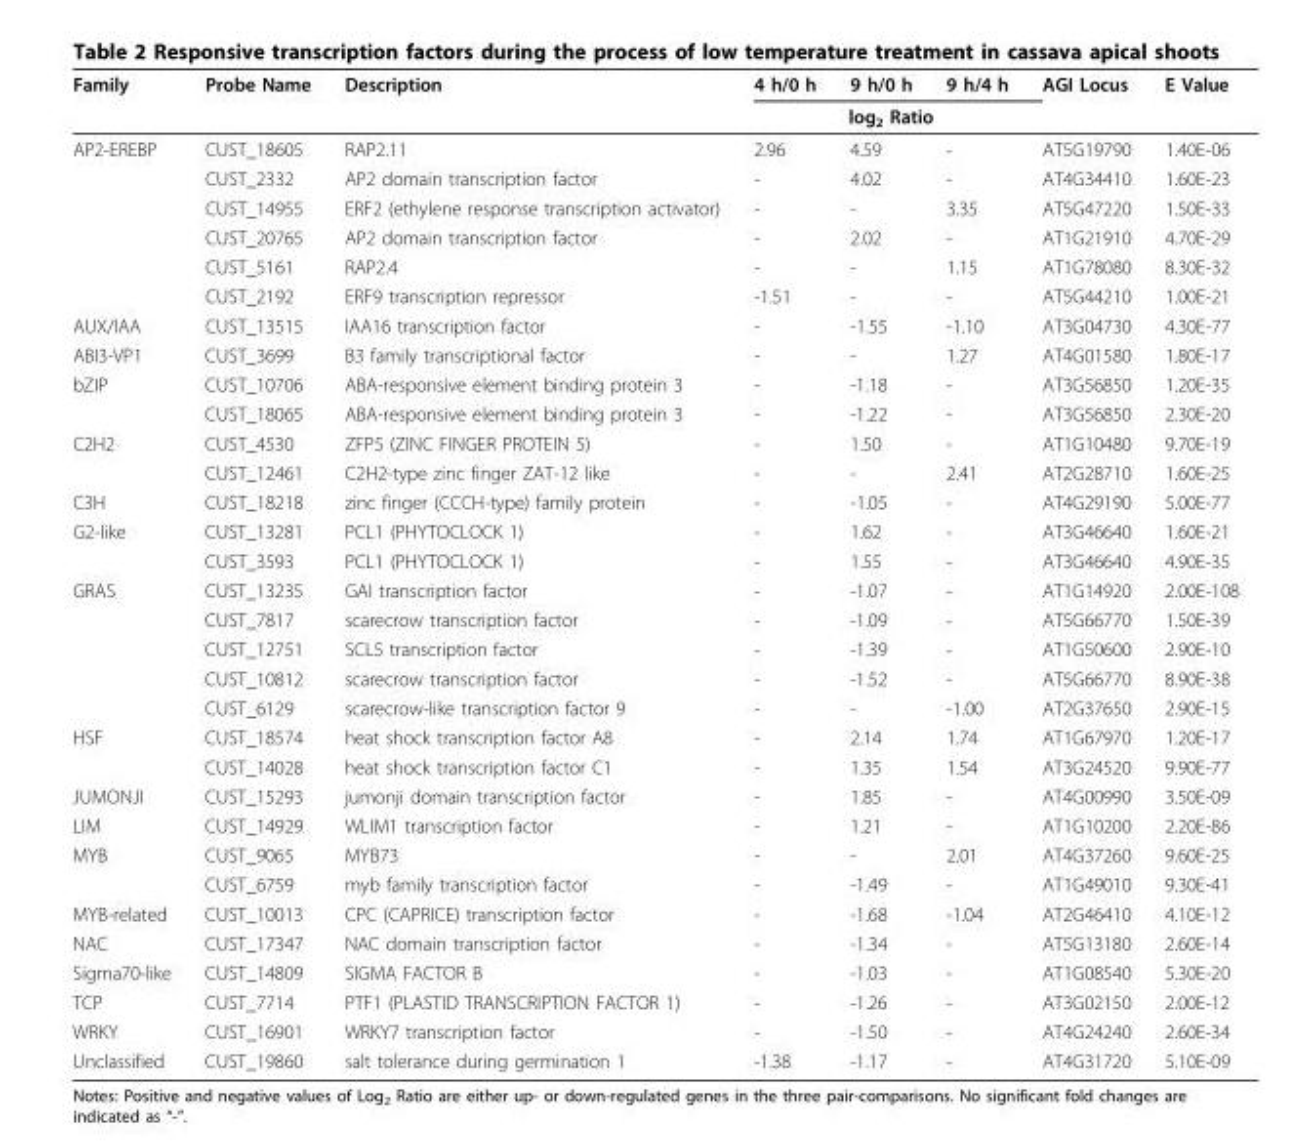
<table><thead><tr><td rowspan="2">Family</td><td rowspan="2">Probe Name</td><td rowspan="2">Description</td><td>4 h/0 h</td><td>9 h/0 h</td><td>9 h/4 h</td><td rowspan="2">AGI Locus</td><td rowspan="2">E Value</td></tr><tr><td colspan="3">log<sub>2</sub> Ratio</td></tr></thead><tbody><tr><td rowspan="6">AP2-EREBP</td><td>CUST_18605</td><td>RAP2.11</td><td>2.96</td><td>4.59</td><td>-</td><td>AT5G19790</td><td>1.40E-06</td></tr><tr><td>CUST_2332</td><td>AP2 domain transcription factor</td><td>-</td><td>4.02</td><td>-</td><td>AT4G34410</td><td>1.60E-23</td></tr><tr><td>CUST_14955</td><td>ERF2 (ethylene response transcription activator)</td><td>-</td><td>-</td><td>3.35</td><td>AT5G47220</td><td>1.50E-33</td></tr><tr><td>CUST_20765</td><td>AP2 domain transcription factor</td><td>-</td><td>2.02</td><td>-</td><td>AT1G21910</td><td>4.70E-29</td></tr><tr><td>CUST_5161</td><td>RAP2.4</td><td>-</td><td>-</td><td>1.15</td><td>AT1G78080</td><td>8.30E-32</td></tr><tr><td>CUST_2192</td><td>ERF9 transcription repressor</td><td>-1.51</td><td>-</td><td>-</td><td>AT5G44210</td><td>1.00E-21</td></tr><tr><td>AUX/IAA</td><td>CUST_13515</td><td>IAA16 transcription factor</td><td>-</td><td>-1.55</td><td>-1.10</td><td>AT3G04730</td><td>4.30E-77</td></tr><tr><td>ABI3-VP1</td><td>CUST_3699</td><td>B3 family transcriptional factor</td><td>-</td><td>-</td><td>1.27</td><td>AT4G01580</td><td>1.80E-17</td></tr><tr><td rowspan="2">bZIP</td><td>CUST_10706</td><td>ABA-responsive element binding protein 3</td><td>-</td><td>-1.18</td><td>-</td><td>AT3G56850</td><td>1.20E-35</td></tr><tr><td>CUST_18065</td><td>ABA-responsive element binding protein 3</td><td>-</td><td>-1.22</td><td>-</td><td>AT3G56850</td><td>2.30E-20</td></tr><tr><td rowspan="2">C2H2</td><td>CUST_4530</td><td>ZFP5 (ZINC FINGER PROTEIN 5)</td><td>-</td><td>1.50</td><td>-</td><td>AT1G10480</td><td>9.70E-19</td></tr><tr><td>CUST_12461</td><td>C2H2-type zinc finger ZAT-12 like</td><td>-</td><td>-</td><td>2.41</td><td>AT2G28710</td><td>1.60E-25</td></tr><tr><td>C3H</td><td>CUST_18218</td><td>zinc finger (CCCH-type) family protein</td><td>-</td><td>-1.05</td><td>-</td><td>AT4G29190</td><td>5.00E-77</td></tr><tr><td rowspan="2">G2-like</td><td>CUST_13281</td><td>PCL1 (PHYTOCLOCK 1)</td><td>-</td><td>1.62</td><td>-</td><td>AT3G46640</td><td>1.60E-21</td></tr><tr><td>CUST_3593</td><td>PCL1 (PHYTOCLOCK 1)</td><td>-</td><td>1.55</td><td>-</td><td>AT3G46640</td><td>4.90E-35</td></tr><tr><td rowspan="5">GRAS</td><td>CUST_13235</td><td>GAI transcription factor</td><td>-</td><td>-1.07</td><td>-</td><td>AT1G14920</td><td>2.00E-108</td></tr><tr><td>CUST_7817</td><td>scarecrow transcription factor</td><td>-</td><td>-1.09</td><td>-</td><td>AT5G66770</td><td>1.50E-39</td></tr><tr><td>CUST_12751</td><td>SCL5 transcription factor</td><td>-</td><td>-1.39</td><td>-</td><td>AT1G50600</td><td>2.90E-10</td></tr><tr><td>CUST_10812</td><td>scarecrow transcription factor</td><td>-</td><td>-1.52</td><td>-</td><td>AT5G66770</td><td>8.90E-38</td></tr><tr><td>CUST_6129</td><td>scarecrow-like transcription factor 9</td><td>-</td><td>-</td><td>-1.00</td><td>AT2G37650</td><td>2.90E-15</td></tr><tr><td rowspan="2">HSF</td><td>CUST_18574</td><td>heat shock transcription factor A8</td><td>-</td><td>2.14</td><td>1.74</td><td>AT1G67970</td><td>1.20E-17</td></tr><tr><td>CUST_14028</td><td>heat shock transcription factor C1</td><td>-</td><td>1.35</td><td>1.54</td><td>AT3G24520</td><td>9.90E-77</td></tr><tr><td>JUMONJI</td><td>CUST_15293</td><td>jumonji domain transcription factor</td><td>-</td><td>1.85</td><td>-</td><td>AT4G00990</td><td>3.50E-09</td></tr><tr><td>LIM</td><td>CUST_14929</td><td>WLIM1 transcription factor</td><td>-</td><td>1.21</td><td>-</td><td>AT1G10200</td><td>2.20E-86</td></tr><tr><td rowspan="2">MYB</td><td>CUST_9065</td><td>MYB73</td><td>-</td><td>-</td><td>2.01</td><td>AT4G37260</td><td>9.60E-25</td></tr><tr><td>CUST_6759</td><td>myb family transcription factor</td><td>-</td><td>-1.49</td><td>-</td><td>AT1G49010</td><td>9.30E-41</td></tr><tr><td>MYB-related</td><td>CUST_10013</td><td>CPC (CAPRICE) transcription factor</td><td>-</td><td>-1.68</td><td>-1.04</td><td>AT2G46410</td><td>4.10E-12</td></tr><tr><td>NAC</td><td>CUST_17347</td><td>NAC domain transcription factor</td><td>-</td><td>-1.34</td><td>-</td><td>AT5G13180</td><td>2.60E-14</td></tr><tr><td>Sigma70-like</td><td>CUST_14809</td><td>SIGMA FACTOR B</td><td>-</td><td>-1.03</td><td>-</td><td>AT1G08540</td><td>5.30E-20</td></tr><tr><td>TCP</td><td>CUST_7714</td><td>PTF1 (PLASTID TRANSCRIPTION FACTOR 1)</td><td>-</td><td>-1.26</td><td>-</td><td>AT3G02150</td><td>2.00E-12</td></tr><tr><td>WRKY</td><td>CUST_16901</td><td>WRKY7 transcription factor</td><td>-</td><td>-1.50</td><td>-</td><td>AT4G24240</td><td>2.60E-34</td></tr><tr><td>Unclassified</td><td>CUST_19860</td><td>salt tolerance during germination 1</td><td>-1.38</td><td>-1.17</td><td>-</td><td>AT4G31720</td><td>5.10E-09</td></tr></tbody></table>